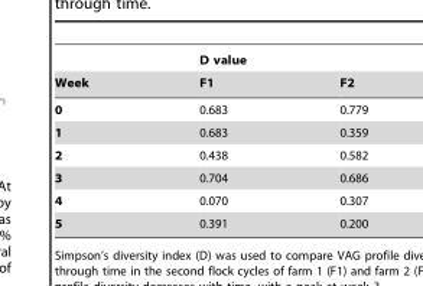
<table><thead><tr><td rowspan="2">Week</td><td colspan="2">D value</td></tr><tr><td>F1</td><td>F2</td></tr></thead><tbody><tr><td>0</td><td>0.683</td><td>0.779</td></tr><tr><td>1</td><td>0.683</td><td>0.359</td></tr><tr><td>2</td><td>0.438</td><td>0.582</td></tr><tr><td>3</td><td>0.704</td><td>0.686</td></tr><tr><td>4</td><td>0.070</td><td>0.307</td></tr><tr><td>5</td><td>0.391</td><td>0.200</td></tr></tbody></table>